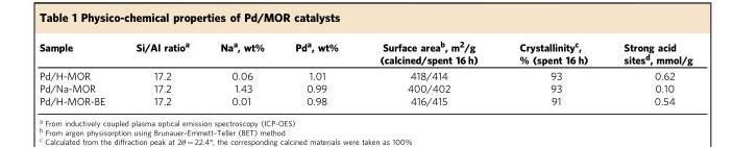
<table><thead><tr><td>Sample</td><td>Si/Al ratio<sup>a</sup></td><td>Na<sup>a</sup>, wt%</td><td>Pd<sup>a</sup>, wt%</td><td>Surface area<sup>b</sup>, m<sup>2</sup>/g (calcined/spent 16 h)</td><td>Crystallinity<sup>c</sup>, % (spent 16 h)</td><td>Strong acid sites<sup>d</sup>, mmol/g</td></tr></thead><tbody><tr><td>Pd/H-MOR</td><td>17.2</td><td>0.06</td><td>1.01</td><td>418/414</td><td>93</td><td>0.62</td></tr><tr><td>Pd/Na-MOR</td><td>17.2</td><td>1.43</td><td>0.99</td><td>400/402</td><td>93</td><td>0.10</td></tr><tr><td>Pd/H-MOR-BE</td><td>17.2</td><td>0.01</td><td>0.98</td><td>416/415</td><td>91</td><td>0.54</td></tr></tbody></table>